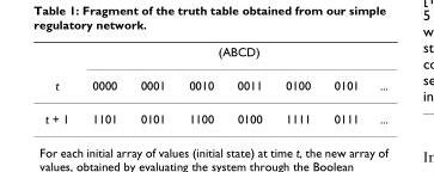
<table><thead><tr><td rowspan="2">t</td><td colspan="7">(ABCD)</td></tr><tr><td>0000</td><td>0001</td><td>0010</td><td>0011</td><td>0100</td><td>0101</td><td>...</td></tr></thead><tbody><tr><td>t + 1</td><td>1101</td><td>0101</td><td>1100</td><td>0100</td><td>1111</td><td>0111</td><td>...</td></tr></tbody></table>